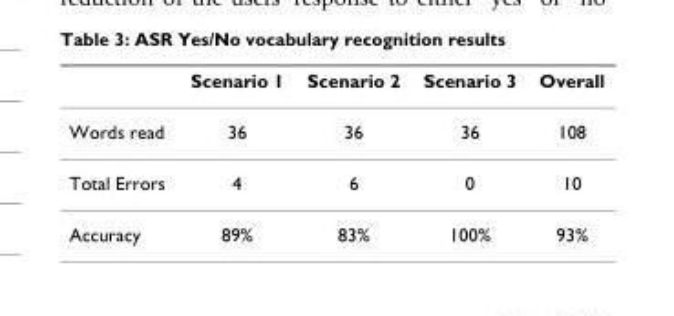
<table><thead><tr><td></td><td>Scenario 1</td><td>Scenario 2</td><td>Scenario 3</td><td>Overall</td></tr></thead><tbody><tr><td>Words read</td><td>36</td><td>36</td><td>36</td><td>108</td></tr><tr><td>Total Errors</td><td>4</td><td>6</td><td>0</td><td>10</td></tr><tr><td>Accuracy</td><td>89%</td><td>83%</td><td>100%</td><td>93%</td></tr></tbody></table>